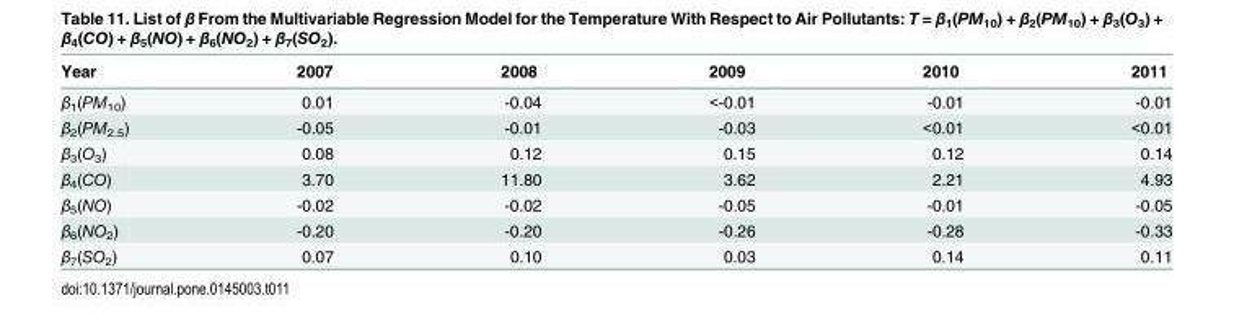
<table><thead><tr><td>Year</td><td>2007</td><td>2008</td><td>2009</td><td>2010</td><td>2011</td></tr></thead><tbody><tr><td>β<sub>1</sub>(PM<sub>10</sub>)</td><td>0.01</td><td>-0.04</td><td>&lt;-0.01</td><td>-0.01</td><td>-0.01</td></tr><tr><td>β<sub>2</sub>(PM<sub>2.5</sub>)</td><td>-0.05</td><td>-0.01</td><td>-0.03</td><td>&lt;0.01</td><td>&lt;0.01</td></tr><tr><td>β<sub>3</sub>(O<sub>3</sub>)</td><td>0.08</td><td>0.12</td><td>0.15</td><td>0.12</td><td>0.14</td></tr><tr><td>β<sub>4</sub>(CO)</td><td>3.70</td><td>11.80</td><td>3.62</td><td>2.21</td><td>4.93</td></tr><tr><td>β<sub>5</sub>(NO)</td><td>-0.02</td><td>-0.02</td><td>-0.05</td><td>-0.01</td><td>-0.05</td></tr><tr><td>β<sub>6</sub>(NO<sub>2</sub>)</td><td>-0.20</td><td>-0.20</td><td>-0.26</td><td>-0.28</td><td>-0.33</td></tr><tr><td>β<sub>7</sub>(SO<sub>2</sub>)</td><td>0.07</td><td>0.10</td><td>0.03</td><td>0.14</td><td>0.11</td></tr></tbody></table>